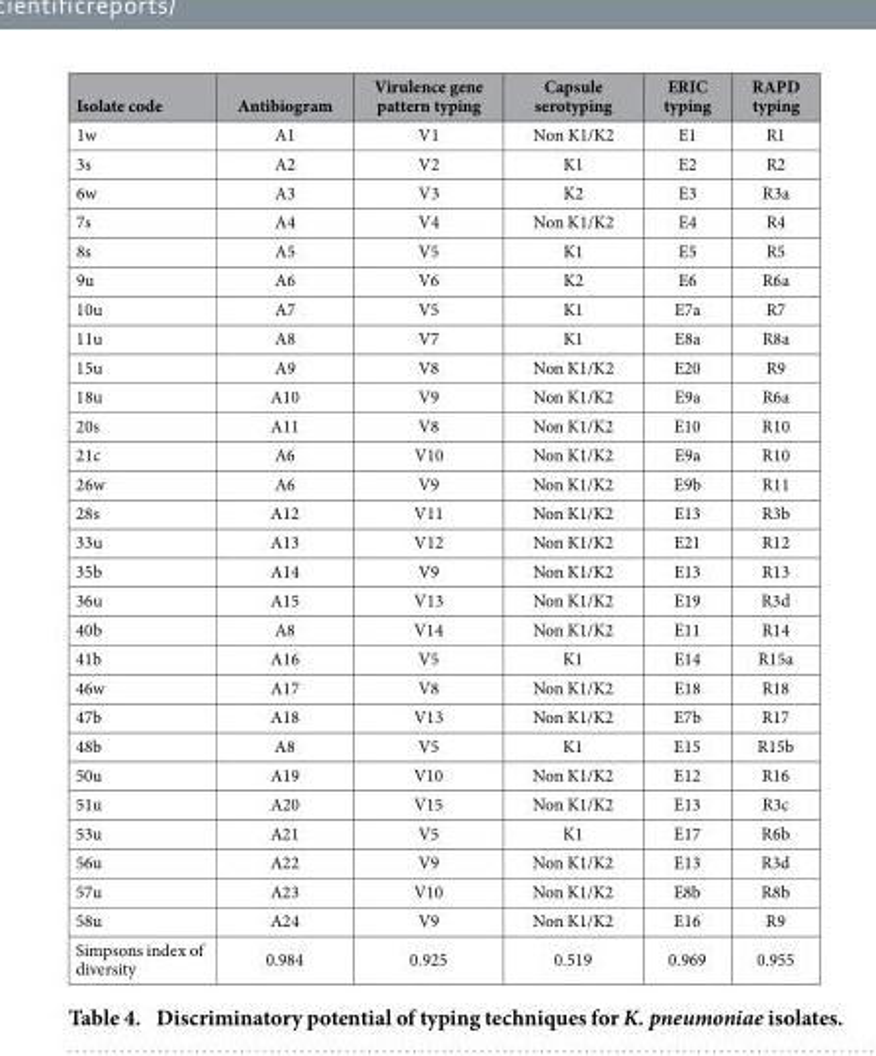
<table><thead><tr><td>Isolate code</td><td>Antibiogram</td><td>Virulence gene pattern typing</td><td>Capsule serotyping</td><td>ERIC typing</td><td>RAPD typing</td></tr></thead><tbody><tr><td>1w</td><td>A1</td><td>V1</td><td>Non K1/K2</td><td>E1</td><td>R1</td></tr><tr><td>3s</td><td>A2</td><td>V2</td><td>K1</td><td>E2</td><td>R2</td></tr><tr><td>6w</td><td>A3</td><td>V3</td><td>K2</td><td>E3</td><td>R3a</td></tr><tr><td>7s</td><td>A4</td><td>V4</td><td>Non K1/K2</td><td>E4</td><td>R4</td></tr><tr><td>8s</td><td>A5</td><td>V5</td><td>K1</td><td>E5</td><td>R5</td></tr><tr><td>9u</td><td>A6</td><td>V6</td><td>K2</td><td>E6</td><td>R6a</td></tr><tr><td>10u</td><td>A7</td><td>V5</td><td>K1</td><td>E7a</td><td>R7</td></tr><tr><td>11u</td><td>A8</td><td>V7</td><td>K1</td><td>E8a</td><td>R8a</td></tr><tr><td>15u</td><td>A9</td><td>V8</td><td>Non K1/K2</td><td>E20</td><td>R9</td></tr><tr><td>18u</td><td>A10</td><td>V9</td><td>Non K1/K2</td><td>E9a</td><td>R6a</td></tr><tr><td>20s</td><td>A11</td><td>V8</td><td>Non K1/K2</td><td>E10</td><td>R10</td></tr><tr><td>21c</td><td>A6</td><td>V10</td><td>Non K1/K2</td><td>E9a</td><td>R10</td></tr><tr><td>26w</td><td>A6</td><td>V9</td><td>Non K1/K2</td><td>E9b</td><td>R11</td></tr><tr><td>28s</td><td>A12</td><td>V11</td><td>Non K1/K2</td><td>E13</td><td>R3b</td></tr><tr><td>33u</td><td>A13</td><td>V12</td><td>Non K1/K2</td><td>E21</td><td>R12</td></tr><tr><td>35b</td><td>A14</td><td>V9</td><td>Non K1/K2</td><td>E13</td><td>R13</td></tr><tr><td>36u</td><td>A15</td><td>V13</td><td>Non K1/K2</td><td>E19</td><td>R3d</td></tr><tr><td>40b</td><td>A8</td><td>V14</td><td>Non K1/K2</td><td>E11</td><td>R14</td></tr><tr><td>41b</td><td>A16</td><td>V5</td><td>K1</td><td>E14</td><td>R15a</td></tr><tr><td>46w</td><td>A17</td><td>V8</td><td>Non K1/K2</td><td>E18</td><td>R18</td></tr><tr><td>47b</td><td>A18</td><td>V13</td><td>Non K1/K2</td><td>E7b</td><td>R17</td></tr><tr><td>48b</td><td>A8</td><td>V5</td><td>K1</td><td>E15</td><td>R15b</td></tr><tr><td>50u</td><td>A19</td><td>V10</td><td>Non K1/K2</td><td>E12</td><td>R16</td></tr><tr><td>51u</td><td>A20</td><td>V15</td><td>Non K1/K2</td><td>E13</td><td>R3c</td></tr><tr><td>53u</td><td>A21</td><td>V5</td><td>K1</td><td>E17</td><td>R6b</td></tr><tr><td>56u</td><td>A22</td><td>V9</td><td>Non K1/K2</td><td>E13</td><td>R3d</td></tr><tr><td>57u</td><td>A23</td><td>V10</td><td>Non K1/K2</td><td>E8b</td><td>R8b</td></tr><tr><td>58u</td><td>A24</td><td>V9</td><td>Non K1/K2</td><td>E16</td><td>R9</td></tr><tr><td>Simpsons index of diversity</td><td>0.984</td><td>0.925</td><td>0.519</td><td>0.969</td><td>0.955</td></tr></tbody></table>